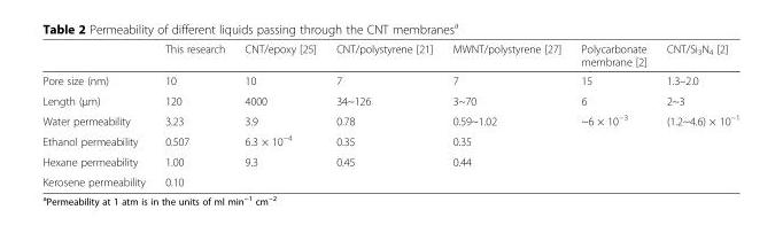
<table><thead><tr><td></td><td>This research</td><td>CNT/epoxy [25]</td><td>CNT/polystyrene [21]</td><td>MWNT/polystyrene [27]</td><td>Polycarbonate membrane [2]</td><td>CNT/Si<sub>3</sub>N<sub>4</sub> [2]</td></tr></thead><tbody><tr><td>Pore size (nm)</td><td>10</td><td>10</td><td>7</td><td>7</td><td>15</td><td>1.3–2.0</td></tr><tr><td>Length (μm)</td><td>120</td><td>4000</td><td>34~126</td><td>3~70</td><td>6</td><td>2~3</td></tr><tr><td>Water permeability</td><td>3.23</td><td>3.9</td><td>0.78</td><td>0.59~1.02</td><td>~6 × 10<sup>−3</sup></td><td>(1.2~4.6) × 10<sup>−1</sup></td></tr><tr><td>Ethanol permeability</td><td>0.507</td><td>6.3 × 10<sup>−4</sup></td><td>0.35</td><td>0.35</td><td></td><td></td></tr><tr><td>Hexane permeability</td><td>1.00</td><td>9.3</td><td>0.45</td><td>0.44</td><td></td><td></td></tr><tr><td>Kerosene permeability</td><td>0.10</td><td></td><td></td><td></td><td></td><td></td></tr></tbody></table>